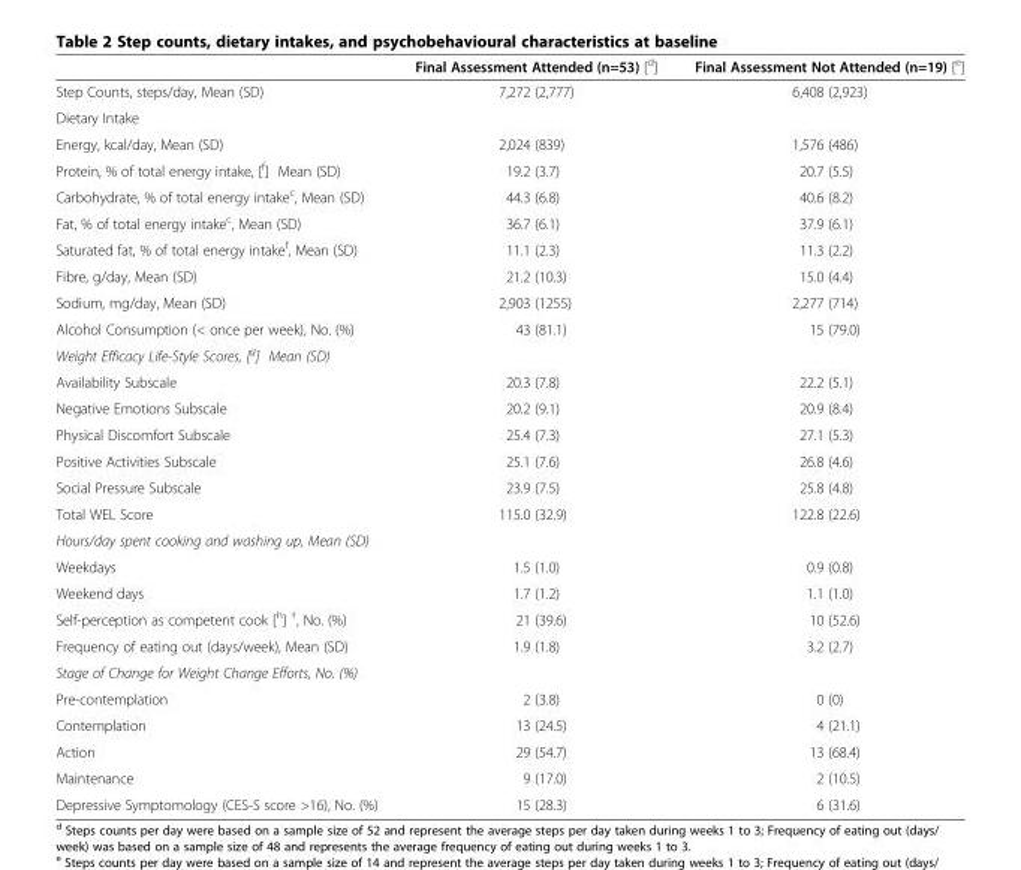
<table><thead><tr><td></td><td>Final Assessment Attended (n=53) [<sup>d</sup>]</td><td>Final Assessment Not Attended (n=19) [<sup>e</sup>]</td></tr></thead><tbody><tr><td>Step Counts, steps/day, Mean (SD)</td><td>7,272 (2,777)</td><td>6,408 (2,923)</td></tr><tr><td colspan="3">Dietary Intake</td></tr><tr><td>Energy, kcal/day, Mean (SD)</td><td>2,024 (839)</td><td>1,576 (486)</td></tr><tr><td>Protein, % of total energy intake, [<sup>f</sup>] Mean (SD)</td><td>19.2 (3.7)</td><td>20.7 (5.5)</td></tr><tr><td>Carbohydrate, % of total energy intake<sup>c</sup>, Mean (SD)</td><td>44.3 (6.8)</td><td>40.6 (8.2)</td></tr><tr><td>Fat, % of total energy intake<sup>c</sup>, Mean (SD)</td><td>36.7 (6.1)</td><td>37.9 (6.1)</td></tr><tr><td>Saturated fat, % of total energy intake<sup>f</sup>, Mean (SD)</td><td>11.1 (2.3)</td><td>11.3 (2.2)</td></tr><tr><td>Fibre, g/day, Mean (SD)</td><td>21.2 (10.3)</td><td>15.0 (4.4)</td></tr><tr><td>Sodium, mg/day, Mean (SD)</td><td>2,903 (1255)</td><td>2,277 (714)</td></tr><tr><td>Alcohol Consumption (&lt; once per week), No. (%)</td><td>43 (81.1)</td><td>15 (79.0)</td></tr><tr><td colspan="3">Weight Efficacy Life-Style Scores, [<sup>g</sup>] Mean (SD)</td></tr><tr><td>Availability Subscale</td><td>20.3 (7.8)</td><td>22.2 (5.1)</td></tr><tr><td>Negative Emotions Subscale</td><td>20.2 (9.1)</td><td>20.9 (8.4)</td></tr><tr><td>Physical Discomfort Subscale</td><td>25.4 (7.3)</td><td>27.1 (5.3)</td></tr><tr><td>Positive Activities Subscale</td><td>25.1 (7.6)</td><td>26.8 (4.6)</td></tr><tr><td>Social Pressure Subscale</td><td>23.9 (7.5)</td><td>25.8 (4.8)</td></tr><tr><td>Total WEL Score</td><td>115.0 (32.9)</td><td>122.8 (22.6)</td></tr><tr><td colspan="3">Hours/day spent cooking and washing up, Mean (SD)</td></tr><tr><td>Weekdays</td><td>1.5 (1.0)</td><td>0.9 (0.8)</td></tr><tr><td>Weekend days</td><td>1.7 (1.2)</td><td>1.1 (1.0)</td></tr><tr><td>Self-perception as competent cook [<sup>h</sup>] <sup>†</sup>, No. (%)</td><td>21 (39.6)</td><td>10 (52.6)</td></tr><tr><td>Frequency of eating out (days/week), Mean (SD)</td><td>1.9 (1.8)</td><td>3.2 (2.7)</td></tr><tr><td colspan="3">Stage of Change for Weight Change Efforts, No. (%)</td></tr><tr><td>Pre-contemplation</td><td>2 (3.8)</td><td>0 (0)</td></tr><tr><td>Contemplation</td><td>13 (24.5)</td><td>4 (21.1)</td></tr><tr><td>Action</td><td>29 (54.7)</td><td>13 (68.4)</td></tr><tr><td>Maintenance</td><td>9 (17.0)</td><td>2 (10.5)</td></tr><tr><td>Depressive Symptomology (CES-S score &gt;16), No. (%)</td><td>15 (28.3)</td><td>6 (31.6)</td></tr></tbody></table>